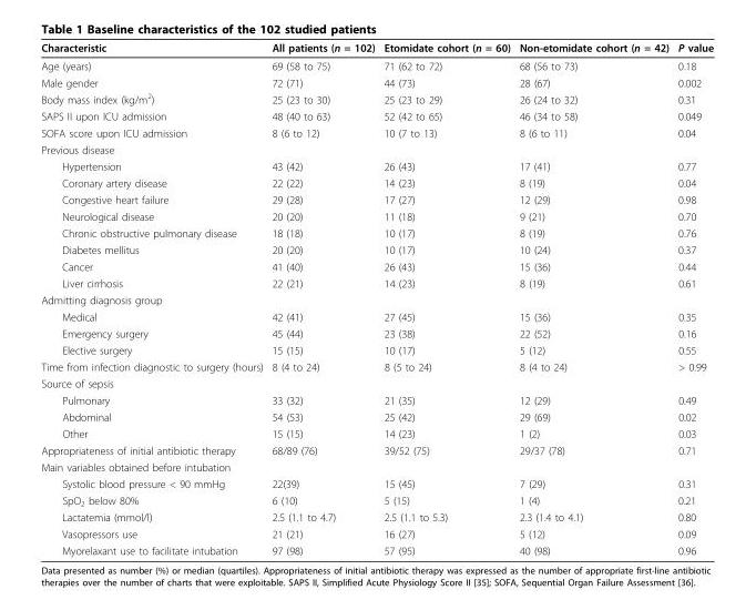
<table><thead><tr><td>Characteristic</td><td>All patients (n = 102)</td><td>Etomidate cohort (n = 60)</td><td>Non-etomidate cohort (n = 42)</td><td>P value</td></tr></thead><tbody><tr><td>Age (years)</td><td>69 (58 to 75)</td><td>71 (62 to 72)</td><td>68 (56 to 73)</td><td>0.18</td></tr><tr><td>Male gender</td><td>72 (71)</td><td>44 (73)</td><td>28 (67)</td><td>0.002</td></tr><tr><td>Body mass index (kg/m<sup>2</sup>)</td><td>25 (23 to 30)</td><td>25 (23 to 29)</td><td>26 (24 to 32)</td><td>0.31</td></tr><tr><td>SAPS II upon ICU admission</td><td>48 (40 to 63)</td><td>52 (42 to 65)</td><td>46 (34 to 58)</td><td>0.049</td></tr><tr><td>SOFA score upon ICU admission</td><td>8 (6 to 12)</td><td>10 (7 to 13)</td><td>8 (6 to 11)</td><td>0.04</td></tr><tr><td colspan="5">Previous disease</td></tr><tr><td>Hypertension</td><td>43 (42)</td><td>26 (43)</td><td>17 (41)</td><td>0.77</td></tr><tr><td>Coronary artery disease</td><td>22 (22)</td><td>14 (23)</td><td>8 (19)</td><td>0.04</td></tr><tr><td>Congestive heart failure</td><td>29 (28)</td><td>17 (27)</td><td>12 (29)</td><td>0.98</td></tr><tr><td>Neurological disease</td><td>20 (20)</td><td>11 (18)</td><td>9 (21)</td><td>0.70</td></tr><tr><td>Chronic obstructive pulmonary disease</td><td>18 (18)</td><td>10 (17)</td><td>8 (19)</td><td>0.76</td></tr><tr><td>Diabetes mellitus</td><td>20 (20)</td><td>10 (17)</td><td>10 (24)</td><td>0.37</td></tr><tr><td>Cancer</td><td>41 (40)</td><td>26 (43)</td><td>15 (36)</td><td>0.44</td></tr><tr><td>Liver cirrhosis</td><td>22 (21)</td><td>14 (23)</td><td>8 (19)</td><td>0.61</td></tr><tr><td colspan="5">Admitting diagnosis group</td></tr><tr><td>Medical</td><td>42 (41)</td><td>27 (45)</td><td>15 (36)</td><td>0.35</td></tr><tr><td>Emergency surgery</td><td>45 (44)</td><td>23 (38)</td><td>22 (52)</td><td>0.16</td></tr><tr><td>Elective surgery</td><td>15 (15)</td><td>10 (17)</td><td>5 (12)</td><td>0.55</td></tr><tr><td>Time from infection diagnostic to surgery (hours)</td><td>8 (4 to 24)</td><td>8 (5 to 24)</td><td>8 (4 to 24)</td><td>&gt; 0.99</td></tr><tr><td colspan="5">Source of sepsis</td></tr><tr><td>Pulmonary</td><td>33 (32)</td><td>21 (35)</td><td>12 (29)</td><td>0.49</td></tr><tr><td>Abdominal</td><td>54 (53)</td><td>25 (42)</td><td>29 (69)</td><td>0.02</td></tr><tr><td>Other</td><td>15 (15)</td><td>14 (23)</td><td>1 (2)</td><td>0.03</td></tr><tr><td>Appropriateness of initial antibiotic therapy</td><td>68/89 (76)</td><td>39/52 (75)</td><td>29/37 (78)</td><td>0.71</td></tr><tr><td colspan="5">Main variables obtained before intubation</td></tr><tr><td>Systolic blood pressure &lt; 90 mmHg</td><td>22(39)</td><td>15 (45)</td><td>7 (29)</td><td>0.31</td></tr><tr><td>SpO<sub>2</sub> below 80%</td><td>6 (10)</td><td>5 (15)</td><td>1 (4)</td><td>0.21</td></tr><tr><td>Lactatemia (mmol/l)</td><td>2.5 (1.1 to 4.7)</td><td>2.5 (1.1 to 5.3)</td><td>2.3 (1.4 to 4.1)</td><td>0.80</td></tr><tr><td>Vasopressors use</td><td>21 (21)</td><td>16 (27)</td><td>5 (12)</td><td>0.09</td></tr><tr><td>Myorelaxant use to facilitate intubation</td><td>97 (98)</td><td>57 (95)</td><td>40 (98)</td><td>0.96</td></tr></tbody></table>